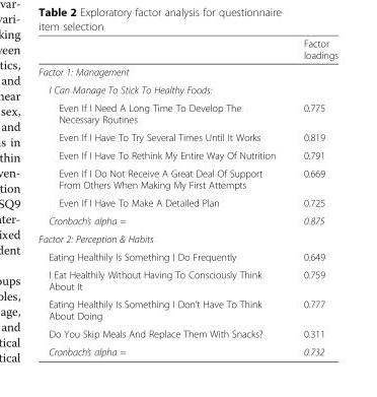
<table><thead><tr><td></td><td>Factor loadings</td></tr></thead><tbody><tr><td colspan="2">Factor 1: Management</td></tr><tr><td colspan="2">I Can Manage To Stick To Healthy Foods:</td></tr><tr><td>Even If I Need A Long Time To Develop The Necessary Routines</td><td>0.775</td></tr><tr><td>Even If I Have To Try Several Times Until It Works</td><td>0.819</td></tr><tr><td>Even If I Have To Rethink My Entire Way Of Nutrition</td><td>0.791</td></tr><tr><td>Even If I Do Not Receive A Great Deal Of Support From Others When Making My First Attempts</td><td>0.669</td></tr><tr><td>Even If I Have To Make A Detailed Plan</td><td>0.725</td></tr><tr><td>Cronbach’s alpha =</td><td>0.875</td></tr><tr><td colspan="2">Factor 2: Perception &amp; Habits</td></tr><tr><td>Eating Healthily Is Something I Do Frequently</td><td>0.649</td></tr><tr><td>I Eat Healthily Without Having To Consciously Think About It</td><td>0.759</td></tr><tr><td>Eating Healthily Is Something I Don’t Have To Think About Doing</td><td>0.777</td></tr><tr><td>Do You Skip Meals And Replace Them With Snacks?</td><td>0.311</td></tr><tr><td>Cronbach’s alpha =</td><td>0.732</td></tr></tbody></table>